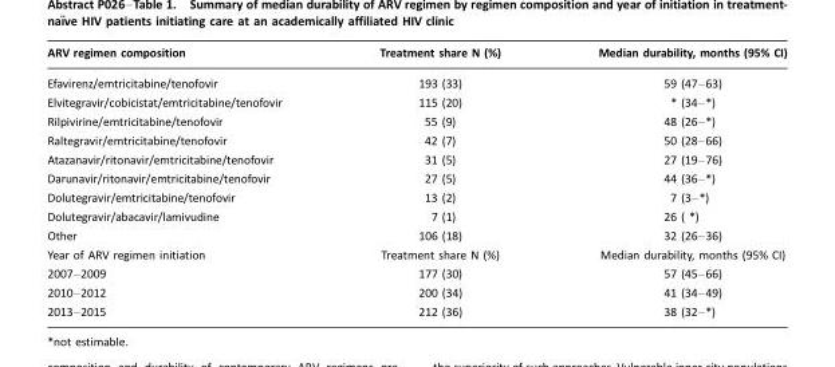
<table><thead><tr><td>ARV regimen composition</td><td>Treatment share N (%)</td><td>Median durability, months (95% CI)</td></tr></thead><tbody><tr><td>Efavirenz/emtricitabine/tenofovir</td><td>193 (33)</td><td>59 (47–63)</td></tr><tr><td>Elvitegravir/cobicistat/emtricitabine/tenofovir</td><td>115 (20)</td><td>* (34–*)</td></tr><tr><td>Rilpivirine/emtricitabine/tenofovir</td><td>55 (9)</td><td>48 (26–*)</td></tr><tr><td>Raltegravir/emtricitabine/tenofovir</td><td>42 (7)</td><td>50 (28–66)</td></tr><tr><td>Atazanavir/ritonavir/emtricitabine/tenofovir</td><td>31 (5)</td><td>27 (19–76)</td></tr><tr><td>Darunavir/ritonavir/emtricitabine/tenofovir</td><td>27 (5)</td><td>44 (36–*)</td></tr><tr><td>Dolutegravir/emtricitabine/tenofovir</td><td>13 (2)</td><td>7 (3–*)</td></tr><tr><td>Dolutegravir/abacavir/lamivudine</td><td>7 (1)</td><td>26 ( *)</td></tr><tr><td>Other</td><td>106 (18)</td><td>32 (26–36)</td></tr><tr><td>Year of ARV regimen initiation</td><td>Treatment share N (%)</td><td>Median durability, months (95% CI)</td></tr><tr><td>2007–2009</td><td>177 (30)</td><td>57 (45–66)</td></tr><tr><td>2010–2012</td><td>200 (34)</td><td>41 (34–49)</td></tr><tr><td>2013–2015</td><td>212 (36)</td><td>38 (32–*)</td></tr></tbody></table>